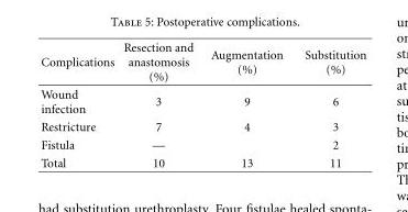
<table><thead><tr><td>Complications</td><td>Resection and anastomosis (%)</td><td>Augmentation (%)</td><td>Substitution (%)</td></tr></thead><tbody><tr><td>Wound infection</td><td>3</td><td>9</td><td>6</td></tr><tr><td>Restricture</td><td>7</td><td>4</td><td>3</td></tr><tr><td>Fistula</td><td>—</td><td></td><td>2</td></tr><tr><td>Total</td><td>10</td><td>13</td><td>11</td></tr></tbody></table>